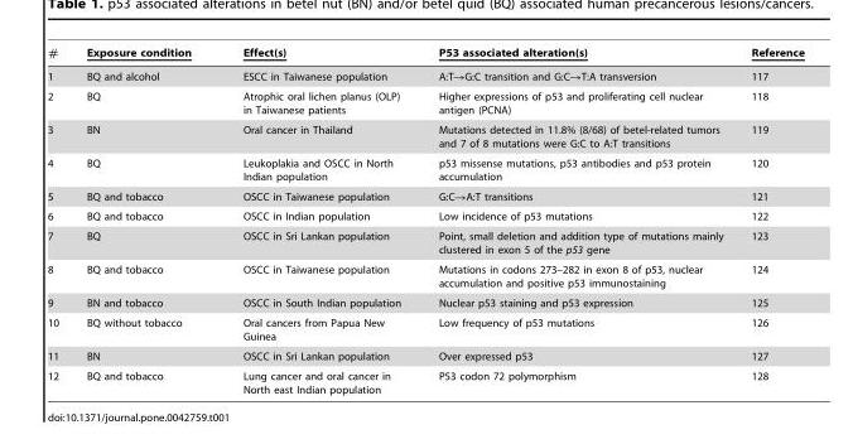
<table><thead><tr><td>#</td><td>Exposure condition</td><td>Effect(s)</td><td>P53 associated alteration(s)</td><td>Reference</td></tr></thead><tbody><tr><td>1</td><td>BQ and alcohol</td><td>ESCC in Taiwanese population</td><td>A:T→G:C transition and G:C→T:A transversion</td><td>117</td></tr><tr><td>2</td><td>BQ</td><td>Atrophic oral lichen planus (OLP) in Taiwanese patients</td><td>Higher expressions of p53 and proliferating cell nuclear antigen (PCNA)</td><td>118</td></tr><tr><td>3</td><td>BN</td><td>Oral cancer in Thailand</td><td>Mutations detected in 11.8% (8/68) of betel-related tumors and 7 of 8 mutations were G:C to A:T transitions</td><td>119</td></tr><tr><td>4</td><td>BQ</td><td>Leukoplakia and OSCC in North Indian population</td><td>p53 missense mutations, p53 antibodies and p53 protein accumulation</td><td>120</td></tr><tr><td>5</td><td>BQ and tobacco</td><td>OSCC in Taiwanese population</td><td>G:C→A:T transitions</td><td>121</td></tr><tr><td>6</td><td>BQ and tobacco</td><td>OSCC in Indian population</td><td>Low incidence of p53 mutations</td><td>122</td></tr><tr><td>7</td><td>BQ</td><td>OSCC in Sri Lankan population</td><td>Point, small deletion and addition type of mutations mainly clustered in exon 5 of the p53 gene</td><td>123</td></tr><tr><td>8</td><td>BQ and tobacco</td><td>OSCC in Taiwanese population</td><td>Mutations in codons 273–282 in exon 8 of p53, nuclear accumulation and positive p53 immunostaining</td><td>124</td></tr><tr><td>9</td><td>BN and tobacco</td><td>OSCC in South Indian population</td><td>Nuclear p53 staining and p53 expression</td><td>125</td></tr><tr><td>10</td><td>BQ without tobacco</td><td>Oral cancers from Papua New Guinea</td><td>Low frequency of p53 mutations</td><td>126</td></tr><tr><td>11</td><td>BN</td><td>OSCC in Sri Lankan population</td><td>Over expressed p53</td><td>127</td></tr><tr><td>12</td><td>BQ and tobacco</td><td>Lung cancer and oral cancer in North east Indian population</td><td>P53 codon 72 polymorphism</td><td>128</td></tr></tbody></table>